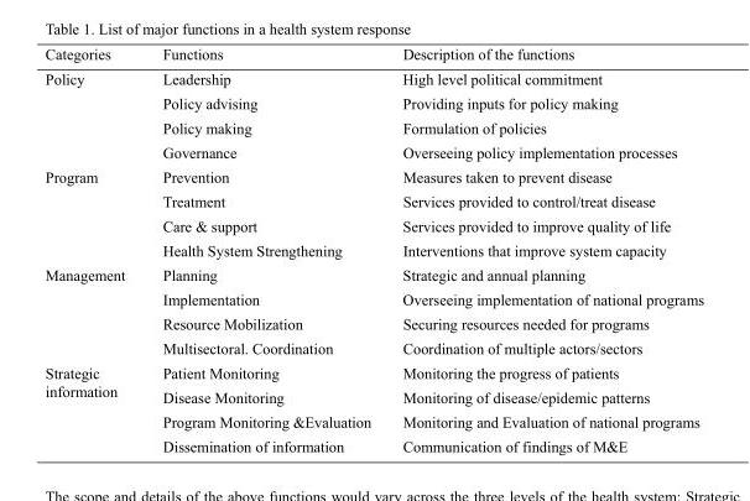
<table><thead><tr><td>Categories</td><td>Functions</td><td>Description of the functions</td></tr></thead><tbody><tr><td rowspan="4">Policy</td><td>Leadership</td><td>High level political commitment</td></tr><tr><td>Policy advising</td><td>Providing inputs for policy making</td></tr><tr><td>Policy making</td><td>Formulation of policies</td></tr><tr><td>Governance</td><td>Overseeing policy implementation processes</td></tr><tr><td rowspan="4">Program</td><td>Prevention</td><td>Measures taken to prevent disease</td></tr><tr><td>Treatment</td><td>Services provided to control/treat disease</td></tr><tr><td>Care &amp; support</td><td>Services provided to improve quality of life</td></tr><tr><td>Health System Strengthening</td><td>Interventions that improve system capacity</td></tr><tr><td rowspan="4">Management</td><td>Planning</td><td>Strategic and annual planning</td></tr><tr><td>Implementation</td><td>Overseeing implementation of national programs</td></tr><tr><td>Resource Mobilization</td><td>Securing resources needed for programs</td></tr><tr><td>Multisectoral. Coordination</td><td>Coordination of multiple actors/sectors</td></tr><tr><td rowspan="4">Strategic information</td><td>Patient Monitoring</td><td>Monitoring the progress of patients</td></tr><tr><td>Disease Monitoring</td><td>Monitoring of disease/epidemic patterns</td></tr><tr><td>Program Monitoring &amp;Evaluation</td><td>Monitoring and Evaluation of national programs</td></tr><tr><td>Dissemination of information</td><td>Communication of findings of M&amp;E</td></tr></tbody></table>